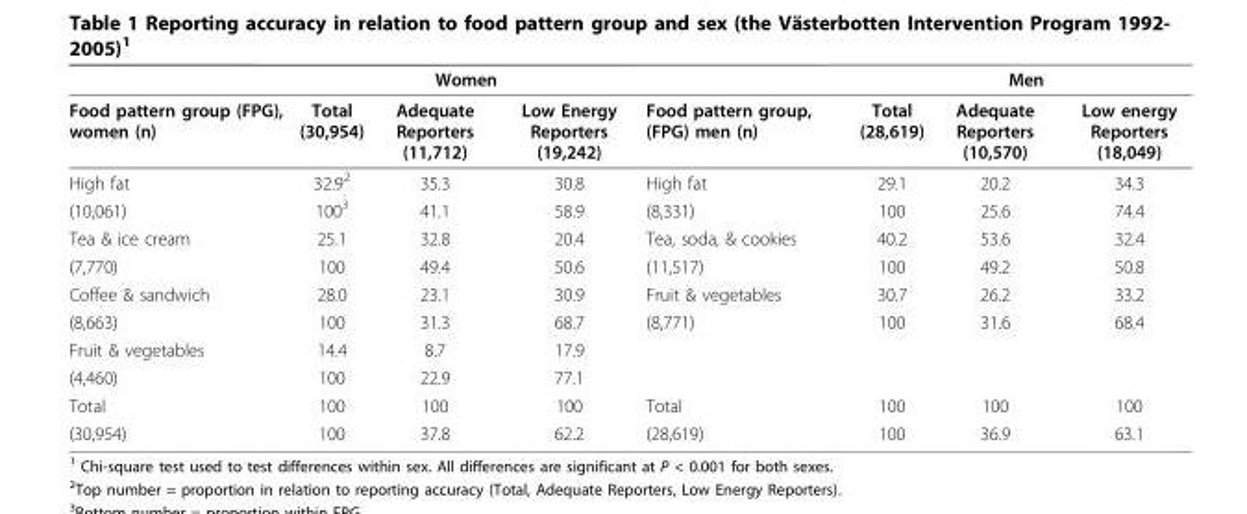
<table><thead><tr><td rowspan="2">Food pattern group (FPG), women (n)</td><td colspan="3">Women</td><td rowspan="2">Food pattern group, (FPG) men (n)</td><td colspan="3">Men</td></tr><tr><td>Total (30,954)</td><td>Adequate Reporters (11,712)</td><td>Low Energy Reporters (19,242)</td><td>Total (28,619)</td><td>Adequate Reporters (10,570)</td><td>Low energy Reporters (18,049)</td></tr></thead><tbody><tr><td>High fat</td><td>32.9<sup>2</sup></td><td>35.3</td><td>30.8</td><td>High fat</td><td>29.1</td><td>20.2</td><td>34.3</td></tr><tr><td>(10,061)</td><td>100<sup>3</sup></td><td>41.1</td><td>58.9</td><td>(8,331)</td><td>100</td><td>25.6</td><td>74.4</td></tr><tr><td>Tea &amp; ice cream</td><td>25.1</td><td>32.8</td><td>20.4</td><td>Tea, soda, &amp; cookies</td><td>40.2</td><td>53.6</td><td>32.4</td></tr><tr><td>(7,770)</td><td>100</td><td>49.4</td><td>50.6</td><td>(11,517)</td><td>100</td><td>49.2</td><td>50.8</td></tr><tr><td>Coffee &amp; sandwich</td><td>28.0</td><td>23.1</td><td>30.9</td><td>Fruit &amp; vegetables</td><td>30.7</td><td>26.2</td><td>33.2</td></tr><tr><td>(8,663)</td><td>100</td><td>31.3</td><td>68.7</td><td>(8,771)</td><td>100</td><td>31.6</td><td>68.4</td></tr><tr><td>Fruit &amp; vegetables</td><td>14.4</td><td>8.7</td><td>17.9</td><td></td><td></td><td></td><td></td></tr><tr><td>(4,460)</td><td>100</td><td>22.9</td><td>77.1</td><td></td><td></td><td></td><td></td></tr><tr><td>Total</td><td>100</td><td>100</td><td>100</td><td>Total</td><td>100</td><td>100</td><td>100</td></tr><tr><td>(30,954)</td><td>100</td><td>37.8</td><td>62.2</td><td>(28,619)</td><td>100</td><td>36.9</td><td>63.1</td></tr></tbody></table>